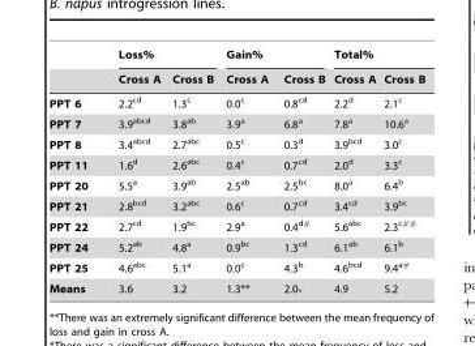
<table><thead><tr><td rowspan="2"></td><td colspan="2">Loss%</td><td colspan="2">Gain%</td><td colspan="2">Total%</td></tr><tr><td>Cross A</td><td>Cross B</td><td>Cross A</td><td>Cross B</td><td>Cross A</td><td>Cross B</td></tr></thead><tbody><tr><td>PPT 6</td><td>2.2<sup>cd</sup></td><td>1.3<sup>c</sup></td><td>0.0<sup>c</sup></td><td>0.8<sup>cd</sup></td><td>2.2<sup>d</sup></td><td>2.1<sup>c</sup></td></tr><tr><td>PPT 7</td><td>3.9<sup>abcd</sup></td><td>3.8<sup>ab</sup></td><td>3.9<sup>a</sup></td><td>6.8<sup>a</sup></td><td>7.8<sup>a</sup></td><td>10.6<sup>a</sup></td></tr><tr><td>PPT 8</td><td>3.4<sup>abcd</sup></td><td>2.7<sup>abc</sup></td><td>0.5<sup>c</sup></td><td>0.3<sup>d</sup></td><td>3.9<sup>bcd</sup></td><td>3.0<sup>c</sup></td></tr><tr><td>PPT 11</td><td>1.6<sup>d</sup></td><td>2.6<sup>abc</sup></td><td>0.4<sup>c</sup></td><td>0.7<sup>cd</sup></td><td>2.0<sup>d</sup></td><td>3.3<sup>c</sup></td></tr><tr><td>PPT 20</td><td>5.5<sup>a</sup></td><td>3.9<sup>ab</sup></td><td>2.5<sup>ab</sup></td><td>2.5<sup>bc</sup></td><td>8.0<sup>a</sup></td><td>6.4<sup>b</sup></td></tr><tr><td>PPT 21</td><td>2.8<sup>bcd</sup></td><td>3.2<sup>abc</sup></td><td>0.6<sup>c</sup></td><td>0.7<sup>cd</sup></td><td>3.4<sup>cd</sup></td><td>3.9<sup>bc</sup></td></tr><tr><td>PPT 22</td><td>2.7<sup>cd</sup></td><td>1.9<sup>bc</sup></td><td>2.9<sup>a</sup></td><td>0.4<sup>d#</sup></td><td>5.6<sup>abc</sup></td><td>2.3<sup>c##</sup></td></tr><tr><td>PPT 24</td><td>5.2<sup>ab</sup></td><td>4.8<sup>a</sup></td><td>0.9<sup>bc</sup></td><td>1.3<sup>cd</sup></td><td>6.1<sup>ab</sup></td><td>6.1<sup>b</sup></td></tr><tr><td>PPT 25</td><td>4.6<sup>abc</sup></td><td>5.1<sup>a</sup></td><td>0.0<sup>c</sup></td><td>4.3<sup>b</sup></td><td>4.6<sup>bcd</sup></td><td>9.4<sup>a#</sup></td></tr><tr><td>Means</td><td>3.6</td><td>3.2</td><td>1.3**</td><td>2.0*</td><td>4.9</td><td>5.2</td></tr></tbody></table>